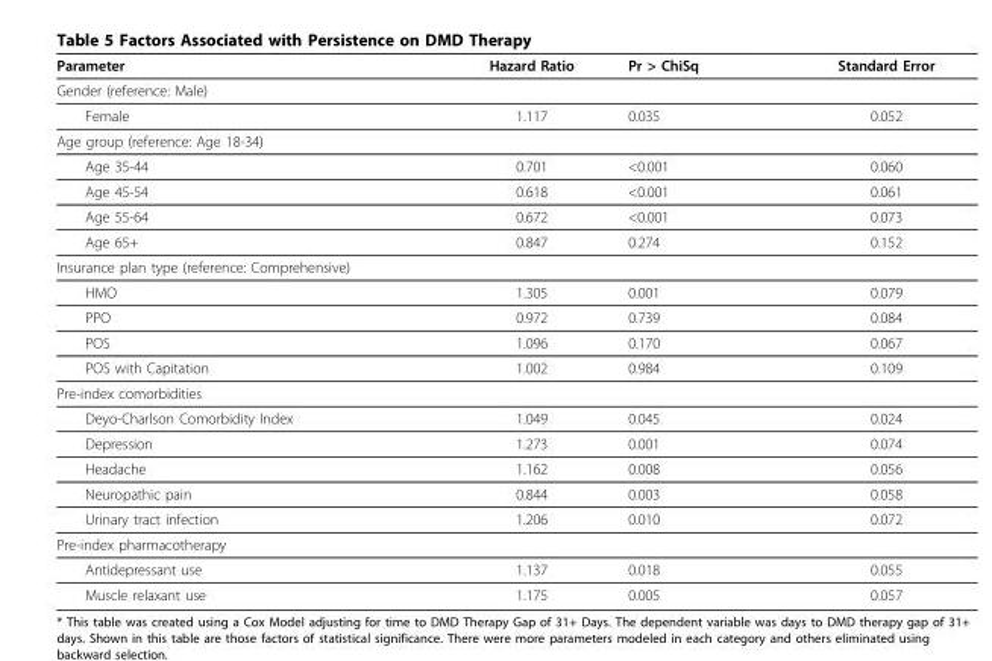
<table><thead><tr><td>Parameter</td><td>Hazard Ratio</td><td>Pr &gt; ChiSq</td><td>Standard Error</td></tr></thead><tbody><tr><td colspan="4">Gender (reference: Male)</td></tr><tr><td>Female</td><td>1.117</td><td>0.035</td><td>0.052</td></tr><tr><td colspan="4">Age group (reference: Age 18-34)</td></tr><tr><td>Age 35-44</td><td>0.701</td><td>&lt;0.001</td><td>0.060</td></tr><tr><td>Age 45-54</td><td>0.618</td><td>&lt;0.001</td><td>0.061</td></tr><tr><td>Age 55-64</td><td>0.672</td><td>&lt;0.001</td><td>0.073</td></tr><tr><td>Age 65+</td><td>0.847</td><td>0.274</td><td>0.152</td></tr><tr><td colspan="4">Insurance plan type (reference: Comprehensive)</td></tr><tr><td>HMO</td><td>1.305</td><td>0.001</td><td>0.079</td></tr><tr><td>PPO</td><td>0.972</td><td>0.739</td><td>0.084</td></tr><tr><td>POS</td><td>1.096</td><td>0.170</td><td>0.067</td></tr><tr><td>POS with Capitation</td><td>1.002</td><td>0.984</td><td>0.109</td></tr><tr><td colspan="4">Pre-index comorbidities</td></tr><tr><td>Deyo-Charlson Comorbidity Index</td><td>1.049</td><td>0.045</td><td>0.024</td></tr><tr><td>Depression</td><td>1.273</td><td>0.001</td><td>0.074</td></tr><tr><td>Headache</td><td>1.162</td><td>0.008</td><td>0.056</td></tr><tr><td>Neuropathic pain</td><td>0.844</td><td>0.003</td><td>0.058</td></tr><tr><td>Urinary tract infection</td><td>1.206</td><td>0.010</td><td>0.072</td></tr><tr><td colspan="4">Pre-index pharmacotherapy</td></tr><tr><td>Antidepressant use</td><td>1.137</td><td>0.018</td><td>0.055</td></tr><tr><td>Muscle relaxant use</td><td>1.175</td><td>0.005</td><td>0.057</td></tr></tbody></table>